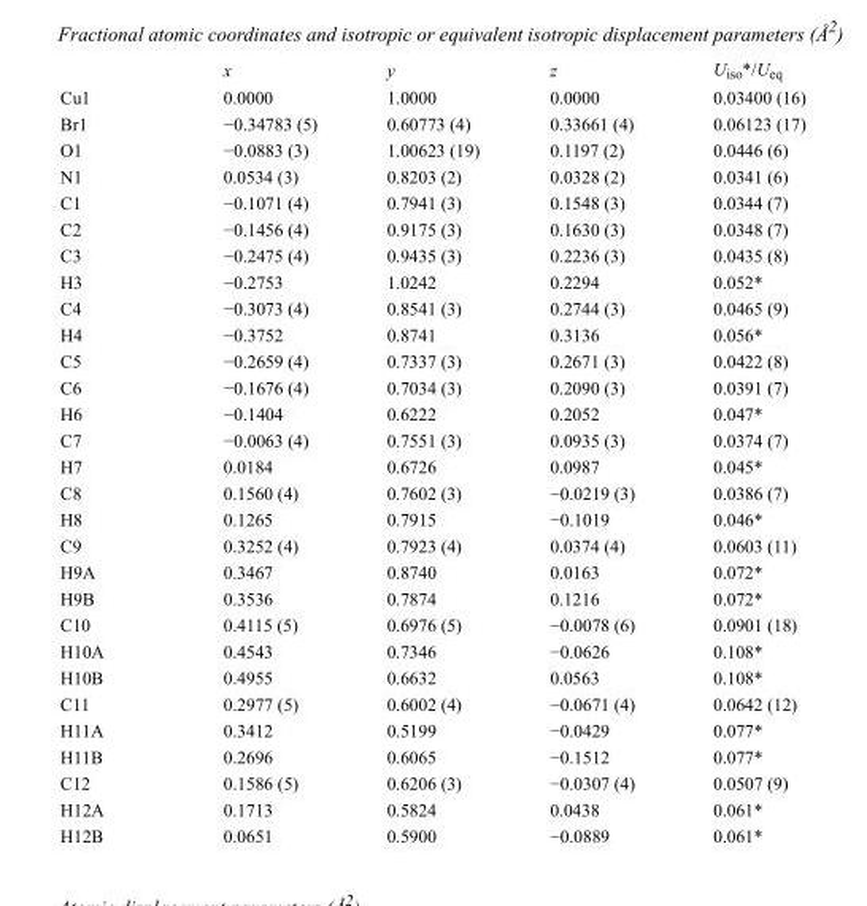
<table><thead><tr><td></td><td>x</td><td>y</td><td>z</td><td>U<sub>iso</sub>*/U<sub>eq</sub></td></tr></thead><tbody><tr><td>Cu1</td><td>0.0000</td><td>1.0000</td><td>0.0000</td><td>0.03400 (16)</td></tr><tr><td>Br1</td><td>−0.34783 (5)</td><td>0.60773 (4)</td><td>0.33661 (4)</td><td>0.06123 (17)</td></tr><tr><td>O1</td><td>−0.0883 (3)</td><td>1.00623 (19)</td><td>0.1197 (2)</td><td>0.0446 (6)</td></tr><tr><td>N1</td><td>0.0534 (3)</td><td>0.8203 (2)</td><td>0.0328 (2)</td><td>0.0341 (6)</td></tr><tr><td>C1</td><td>−0.1071 (4)</td><td>0.7941 (3)</td><td>0.1548 (3)</td><td>0.0344 (7)</td></tr><tr><td>C2</td><td>−0.1456 (4)</td><td>0.9175 (3)</td><td>0.1630 (3)</td><td>0.0348 (7)</td></tr><tr><td>C3</td><td>−0.2475 (4)</td><td>0.9435 (3)</td><td>0.2236 (3)</td><td>0.0435 (8)</td></tr><tr><td>H3</td><td>−0.2753</td><td>1.0242</td><td>0.2294</td><td>0.052*</td></tr><tr><td>C4</td><td>−0.3073 (4)</td><td>0.8541 (3)</td><td>0.2744 (3)</td><td>0.0465 (9)</td></tr><tr><td>H4</td><td>−0.3752</td><td>0.8741</td><td>0.3136</td><td>0.056*</td></tr><tr><td>C5</td><td>−0.2659 (4)</td><td>0.7337 (3)</td><td>0.2671 (3)</td><td>0.0422 (8)</td></tr><tr><td>C6</td><td>−0.1676 (4)</td><td>0.7034 (3)</td><td>0.2090 (3)</td><td>0.0391 (7)</td></tr><tr><td>H6</td><td>−0.1404</td><td>0.6222</td><td>0.2052</td><td>0.047*</td></tr><tr><td>C7</td><td>−0.0063 (4)</td><td>0.7551 (3)</td><td>0.0935 (3)</td><td>0.0374 (7)</td></tr><tr><td>H7</td><td>0.0184</td><td>0.6726</td><td>0.0987</td><td>0.045*</td></tr><tr><td>C8</td><td>0.1560 (4)</td><td>0.7602 (3)</td><td>−0.0219 (3)</td><td>0.0386 (7)</td></tr><tr><td>H8</td><td>0.1265</td><td>0.7915</td><td>−0.1019</td><td>0.046*</td></tr><tr><td>C9</td><td>0.3252 (4)</td><td>0.7923 (4)</td><td>0.0374 (4)</td><td>0.0603 (11)</td></tr><tr><td>H9A</td><td>0.3467</td><td>0.8740</td><td>0.0163</td><td>0.072*</td></tr><tr><td>H9B</td><td>0.3536</td><td>0.7874</td><td>0.1216</td><td>0.072*</td></tr><tr><td>C10</td><td>0.4115 (5)</td><td>0.6976 (5)</td><td>−0.0078 (6)</td><td>0.0901 (18)</td></tr><tr><td>H10A</td><td>0.4543</td><td>0.7346</td><td>−0.0626</td><td>0.108*</td></tr><tr><td>H10B</td><td>0.4955</td><td>0.6632</td><td>0.0563</td><td>0.108*</td></tr><tr><td>C11</td><td>0.2977 (5)</td><td>0.6002 (4)</td><td>−0.0671 (4)</td><td>0.0642 (12)</td></tr><tr><td>H11A</td><td>0.3412</td><td>0.5199</td><td>−0.0429</td><td>0.077*</td></tr><tr><td>H11B</td><td>0.2696</td><td>0.6065</td><td>−0.1512</td><td>0.077*</td></tr><tr><td>C12</td><td>0.1586 (5)</td><td>0.6206 (3)</td><td>−0.0307 (4)</td><td>0.0507 (9)</td></tr><tr><td>H12A</td><td>0.1713</td><td>0.5824</td><td>0.0438</td><td>0.061*</td></tr><tr><td>H12B</td><td>0.0651</td><td>0.5900</td><td>−0.0889</td><td>0.061*</td></tr></tbody></table>